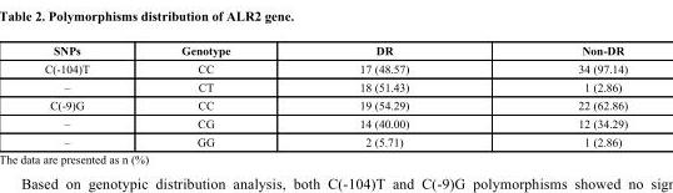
<table><thead><tr><td>SNPs</td><td>Genotype</td><td>DR</td><td>Non-DR</td></tr></thead><tbody><tr><td>C(-104)T</td><td>CC</td><td>17 (48.57)</td><td>34 (97.14)</td></tr><tr><td>–</td><td>CT</td><td>18 (51.43)</td><td>1 (2.86)</td></tr><tr><td>C(-9)G</td><td>CC</td><td>19 (54.29)</td><td>22 (62.86)</td></tr><tr><td>–</td><td>CG</td><td>14 (40.00)</td><td>12 (34.29)</td></tr><tr><td>–</td><td>GG</td><td>2 (5.71)</td><td>1 (2.86)</td></tr></tbody></table>